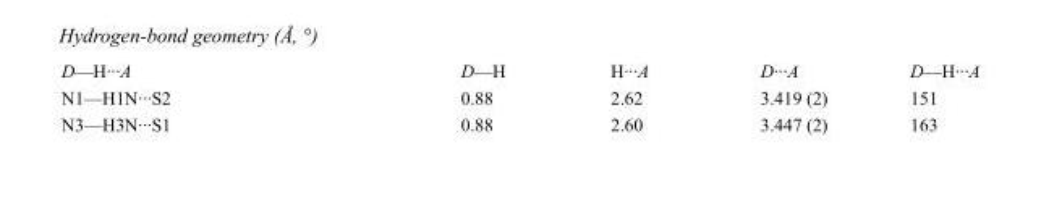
<table><tbody><tr><td>D—H···A</td><td>D—H</td><td>H···A</td><td>D···A</td><td>D—H···A</td></tr><tr><td>N1—H1N···S2</td><td>0.88</td><td>2.62</td><td>3.419 (2)</td><td>151</td></tr><tr><td>N3—H3N···S1</td><td>0.88</td><td>2.60</td><td>3.447 (2)</td><td>163</td></tr></tbody></table>